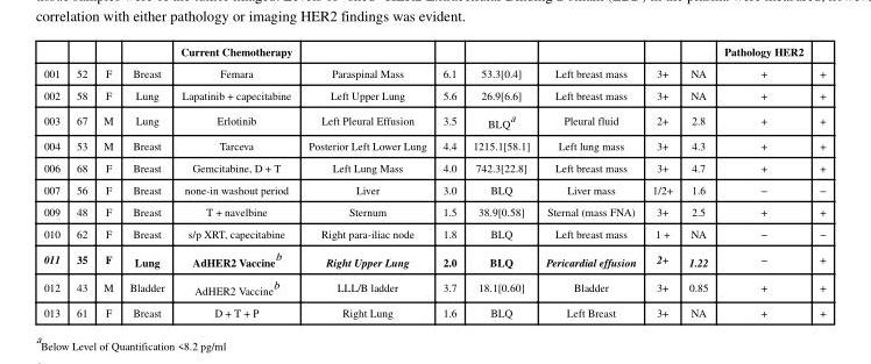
<table><thead><tr><td></td><td></td><td></td><td></td><td>Current Chemotherapy</td><td></td><td></td><td></td><td></td><td></td><td></td><td>Pathology HER2</td><td></td></tr></thead><tbody><tr><td>001</td><td>52</td><td>F</td><td>Breast</td><td>Femara</td><td>Paraspinal Mass</td><td>6.1</td><td>53.3[0.4]</td><td>Left breast mass</td><td>3+</td><td>NA</td><td>+</td><td>+</td></tr><tr><td>002</td><td>58</td><td>F</td><td>Lung</td><td>Lapatinib + capecitabine</td><td>Left Upper Lung</td><td>5.6</td><td>26.9[6.6]</td><td>Left breast mass</td><td>3+</td><td>NA</td><td>+</td><td>+</td></tr><tr><td>003</td><td>67</td><td>M</td><td>Lung</td><td>Erlotinib</td><td>Left Pleural Effusion</td><td>3.5</td><td>BLQ<sup>a</sup></td><td>Pleural fluid</td><td>2+</td><td>2.8</td><td>+</td><td>+</td></tr><tr><td>004</td><td>53</td><td>M</td><td>Breast</td><td>Tarceva</td><td>Posterior Left Lower Lung</td><td>4.4</td><td>1215.1[58.1]</td><td>Left lung mass</td><td>3+</td><td>4.3</td><td>+</td><td>+</td></tr><tr><td>006</td><td>68</td><td>F</td><td>Breast</td><td>Gemcitabine, D + T</td><td>Left Lung Mass</td><td>4.0</td><td>742.3[22.8]</td><td>Left breast mass</td><td>3+</td><td>4.7</td><td>+</td><td>+</td></tr><tr><td>007</td><td>56</td><td>F</td><td>Breast</td><td>none-in washout period</td><td>Liver</td><td>3.0</td><td>BLQ</td><td>Liver mass</td><td>1/2+</td><td>1.6</td><td>−</td><td>−</td></tr><tr><td>009</td><td>48</td><td>F</td><td>Breast</td><td>T + navelbine</td><td>Sternum</td><td>1.5</td><td>38.9[0.58]</td><td>Sternal (mass FNA)</td><td>3+</td><td>2.5</td><td>+</td><td>+</td></tr><tr><td>010</td><td>62</td><td>F</td><td>Breast</td><td>s/p XRT, capecitabine</td><td>Right para-iliac node</td><td>1.8</td><td>BLQ</td><td>Left breast mass</td><td>1 +</td><td>NA</td><td>−</td><td>−</td></tr><tr><td>011</td><td>35</td><td>F</td><td>Lung</td><td>AdHER2 Vaccine<sup>b</sup></td><td>Right Upper Lung</td><td>2.0</td><td>BLQ</td><td>Pericardial effusion</td><td>2+</td><td>1.22</td><td>−</td><td>+</td></tr><tr><td>012</td><td>43</td><td>M</td><td>Bladder</td><td>AdHER2 Vaccine<sup>b</sup></td><td>LLL/B ladder</td><td>3.7</td><td>18.1[0.60]</td><td>Bladder</td><td>3+</td><td>0.85</td><td>+</td><td>+</td></tr><tr><td>013</td><td>61</td><td>F</td><td>Breast</td><td>D + T + P</td><td>Right Lung</td><td>1.6</td><td>BLQ</td><td>Left Breast</td><td>3+</td><td>NA</td><td>+</td><td>+</td></tr></tbody></table>